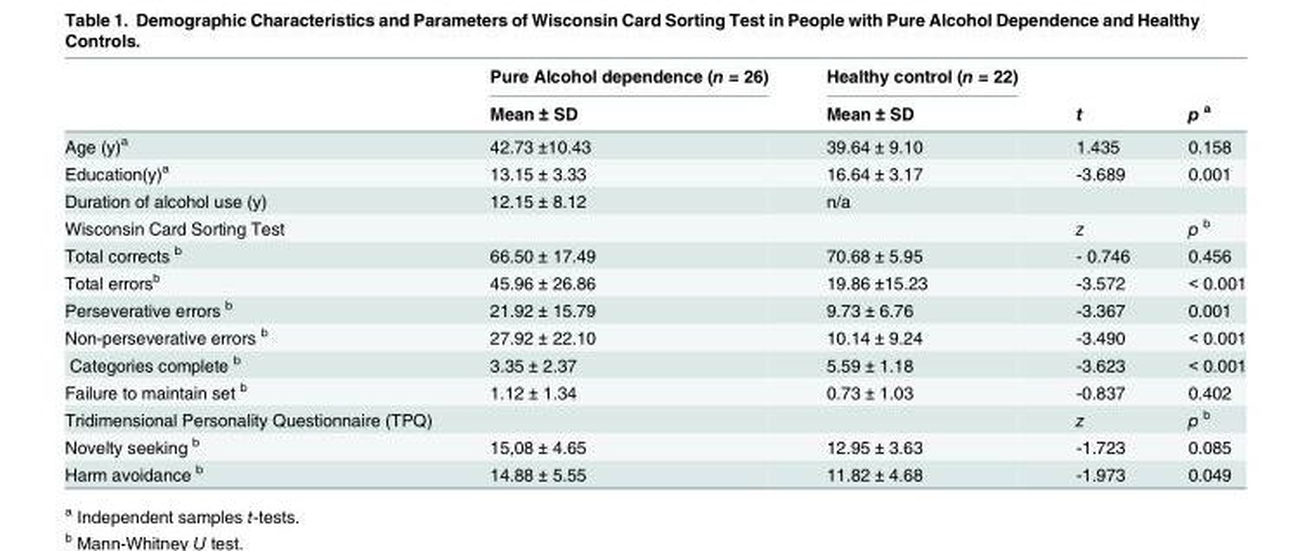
<table><thead><tr><td rowspan="2"></td><td rowspan="2">Pure Alcohol dependence (n = 26) Mean ± SD</td><td rowspan="2">Healthy control (n = 22) Mean ± SD</td><td rowspan="2">t</td><td rowspan="2">p <sup>a</sup></td></tr><tr></tr></thead><tbody><tr><td>Age (y)<sup>a</sup></td><td>42.73 ±10.43</td><td>39.64 ± 9.10</td><td>1.435</td><td>0.158</td></tr><tr><td>Education(y)<sup>a</sup></td><td>13.15 ± 3.33</td><td>16.64 ± 3.17</td><td>-3.689</td><td>0.001</td></tr><tr><td>Duration of alcohol use (y)</td><td>12.15 ± 8.12</td><td>n/a</td><td></td><td></td></tr><tr><td>Wisconsin Card Sorting Test</td><td></td><td></td><td>z</td><td>p <sup>b</sup></td></tr><tr><td>Total corrects <sup>b</sup></td><td>66.50 ± 17.49</td><td>70.68 ± 5.95</td><td>- 0.746</td><td>0.456</td></tr><tr><td>Total errors<sup>b</sup></td><td>45.96 ± 26.86</td><td>19.86 ±15.23</td><td>-3.572</td><td>&lt; 0.001</td></tr><tr><td>Perseverative errors <sup>b</sup></td><td>21.92 ± 15.79</td><td>9.73 ± 6.76</td><td>-3.367</td><td>0.001</td></tr><tr><td>Non-perseverative errors <sup>b</sup></td><td>27.92 ± 22.10</td><td>10.14 ± 9.24</td><td>-3.490</td><td>&lt; 0.001</td></tr><tr><td>Categories complete <sup>b</sup></td><td>3.35 ± 2.37</td><td>5.59 ± 1.18</td><td>-3.623</td><td>&lt; 0.001</td></tr><tr><td>Failure to maintain set <sup>b</sup></td><td>1.12 ± 1.34</td><td>0.73 ± 1.03</td><td>-0.837</td><td>0.402</td></tr><tr><td>Tridimensional Personality Questionnaire (TPQ)</td><td></td><td></td><td>z</td><td>p <sup>b</sup></td></tr><tr><td>Novelty seeking <sup>b</sup></td><td>15,08 ± 4.65</td><td>12.95 ± 3.63</td><td>-1.723</td><td>0.085</td></tr><tr><td>Harm avoidance <sup>b</sup></td><td>14.88 ± 5.55</td><td>11.82 ± 4.68</td><td>-1.973</td><td>0.049</td></tr></tbody></table>